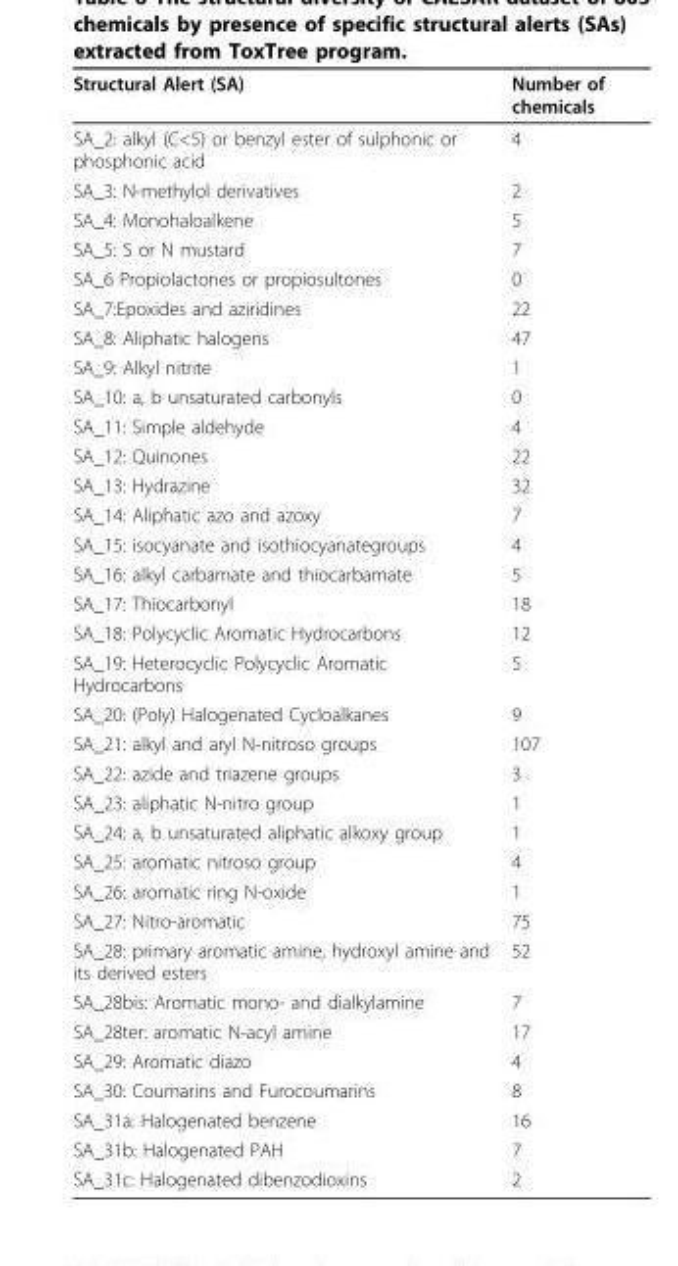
<table><thead><tr><td>Structural Alert (SA)</td><td>Number of chemicals</td></tr></thead><tbody><tr><td>SA_2: alkyl (C&lt;5) or benzyl ester of sulphonic or phosphonic acid</td><td>4</td></tr><tr><td>SA_3: N-methylol derivatives</td><td>2</td></tr><tr><td>SA_4: Monohaloalkene</td><td>5</td></tr><tr><td>SA_5: S or N mustard</td><td>7</td></tr><tr><td>SA_6 Propiolactones or propiosultones</td><td>0</td></tr><tr><td>SA_7:Epoxides and aziridines</td><td>22</td></tr><tr><td>SA_8: Aliphatic halogens</td><td>47</td></tr><tr><td>SA_9: Alkyl nitrite</td><td>1</td></tr><tr><td>SA_10: a, b unsaturated carbonyls</td><td>0</td></tr><tr><td>SA_11: Simple aldehyde</td><td>4</td></tr><tr><td>SA_12: Quinones</td><td>22</td></tr><tr><td>SA_13: Hydrazine</td><td>32</td></tr><tr><td>SA_14: Aliphatic azo and azoxy</td><td>7</td></tr><tr><td>SA_15: isocyanate and isothiocyanategroups</td><td>4</td></tr><tr><td>SA_16: alkyl carbamate and thiocarbamate</td><td>5</td></tr><tr><td>SA_17: Thiocarbonyl</td><td>18</td></tr><tr><td>SA_18: Polycyclic Aromatic Hydrocarbons</td><td>12</td></tr><tr><td>SA_19: Heterocyclic Polycyclic Aromatic Hydrocarbons</td><td>5</td></tr><tr><td>SA_20: (Poly) Halogenated Cycloalkanes</td><td>9</td></tr><tr><td>SA_21: alkyl and aryl N-nitroso groups</td><td>107</td></tr><tr><td>SA_22: azide and triazene groups</td><td>3</td></tr><tr><td>SA_23: aliphatic N-nitro group</td><td>1</td></tr><tr><td>SA_24: a, b unsaturated aliphatic alkoxy group</td><td>1</td></tr><tr><td>SA_25: aromatic nitroso group</td><td>4</td></tr><tr><td>SA_26: aromatic ring N-oxide</td><td>1</td></tr><tr><td>SA_27: Nitro-aromatic</td><td>75</td></tr><tr><td>SA_28: primary aromatic amine, hydroxyl amine and its derived esters</td><td>52</td></tr><tr><td>SA_28bis: Aromatic mono- and dialkylamine</td><td>7</td></tr><tr><td>SA_28ter: aromatic N-acyl amine</td><td>17</td></tr><tr><td>SA_29: Aromatic diazo</td><td>4</td></tr><tr><td>SA_30: Coumarins and Furocoumarins</td><td>8</td></tr><tr><td>SA_31a: Halogenated benzene</td><td>16</td></tr><tr><td>SA_31b: Halogenated PAH</td><td>7</td></tr><tr><td>SA_31c: Halogenated dibenzodioxins</td><td>2</td></tr></tbody></table>